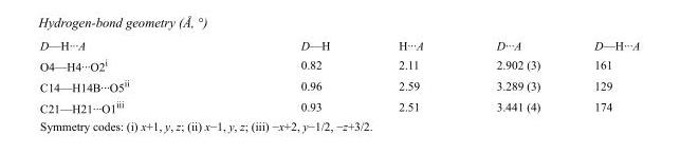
<table><tbody><tr><td>D—H···A</td><td>D—H</td><td>H···A</td><td>D···A</td><td>D—H···A</td></tr><tr><td>O4—H4···O2<sup>i</sup></td><td>0.82</td><td>2.11</td><td>2.902 (3)</td><td>161</td></tr><tr><td>C14—H14B···O5<sup>ii</sup></td><td>0.96</td><td>2.59</td><td>3.289 (3)</td><td>129</td></tr><tr><td>C21—H21···O1<sup>iii</sup></td><td>0.93</td><td>2.51</td><td>3.441 (4)</td><td>174</td></tr></tbody></table>